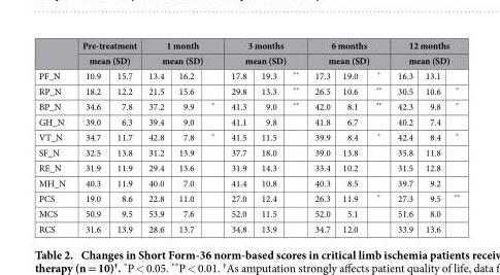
<table><thead><tr><td rowspan="3">PF_N</td><td rowspan="2" colspan="2">Pre-treatment mean (SD)</td><td rowspan="2" colspan="3">1 month mean (SD)</td><td rowspan="2" colspan="3">3 months mean (SD)</td><td rowspan="2" colspan="3">6 months mean (SD)</td><td rowspan="2" colspan="3">12 months mean (SD)</td></tr><tr></tr><tr><td>10.9</td><td>15.7</td><td>13.4</td><td>16.2</td><td></td><td>17.8</td><td>19.3</td><td>**</td><td>17.3</td><td>19.0</td><td>*</td><td>16.3</td><td>13.1</td><td></td></tr></thead><tbody><tr><td>RP_N</td><td>18.2</td><td>12.2</td><td>21.5</td><td>15.6</td><td></td><td>29.8</td><td>13.3</td><td>**</td><td>26.5</td><td>10.6</td><td>**</td><td>30.5</td><td>10.6</td><td>*</td></tr><tr><td>BP_N</td><td>34.6</td><td>7.8</td><td>37.2</td><td>9.9</td><td>*</td><td>41.3</td><td>9.0</td><td>**</td><td>42.0</td><td>8.1</td><td>**</td><td>42.3</td><td>9.8</td><td>*</td></tr><tr><td>GH_N</td><td>39.0</td><td>6.3</td><td>39.4</td><td>9.0</td><td></td><td>41.1</td><td>9.8</td><td></td><td>41.8</td><td>6.7</td><td></td><td>40.2</td><td>7.4</td><td></td></tr><tr><td>VT_N</td><td>34.7</td><td>11.7</td><td>42.8</td><td>7.8</td><td>*</td><td>41.5</td><td>11.5</td><td></td><td>39.9</td><td>8.4</td><td>*</td><td>42.4</td><td>8.4</td><td>*</td></tr><tr><td>SF_N</td><td>32.5</td><td>13.8</td><td>31.2</td><td>13.9</td><td></td><td>37.7</td><td>18.0</td><td></td><td>39.0</td><td>13.8</td><td></td><td>35.8</td><td>11.8</td><td></td></tr><tr><td>RE_N</td><td>31.9</td><td>11.9</td><td>29.4</td><td>13.6</td><td></td><td>31.9</td><td>14.3</td><td></td><td>33.4</td><td>10.2</td><td></td><td>31.5</td><td>12.8</td><td></td></tr><tr><td>MH_N</td><td>40.3</td><td>11.9</td><td>40.0</td><td>7.0</td><td></td><td>41.4</td><td>10.8</td><td></td><td>40.3</td><td>8.5</td><td></td><td>39.7</td><td>9.2</td><td></td></tr><tr><td>PCS</td><td>19.0</td><td>8.6</td><td>22.8</td><td>11.0</td><td></td><td>27.0</td><td>12.4</td><td></td><td>26.3</td><td>11.9</td><td>*</td><td>27.3</td><td>9.5</td><td>**</td></tr><tr><td>MCS</td><td>50.9</td><td>9.5</td><td>53.9</td><td>7.6</td><td></td><td>52.0</td><td>11.5</td><td></td><td>52.0</td><td>5.1</td><td></td><td>51.6</td><td>8.0</td><td></td></tr><tr><td>RCS</td><td>31.6</td><td>13.9</td><td>28.6</td><td>13.7</td><td></td><td>34.8</td><td>13.9</td><td></td><td>34.7</td><td>12.0</td><td></td><td>33.9</td><td>13.6</td><td></td></tr></tbody></table>